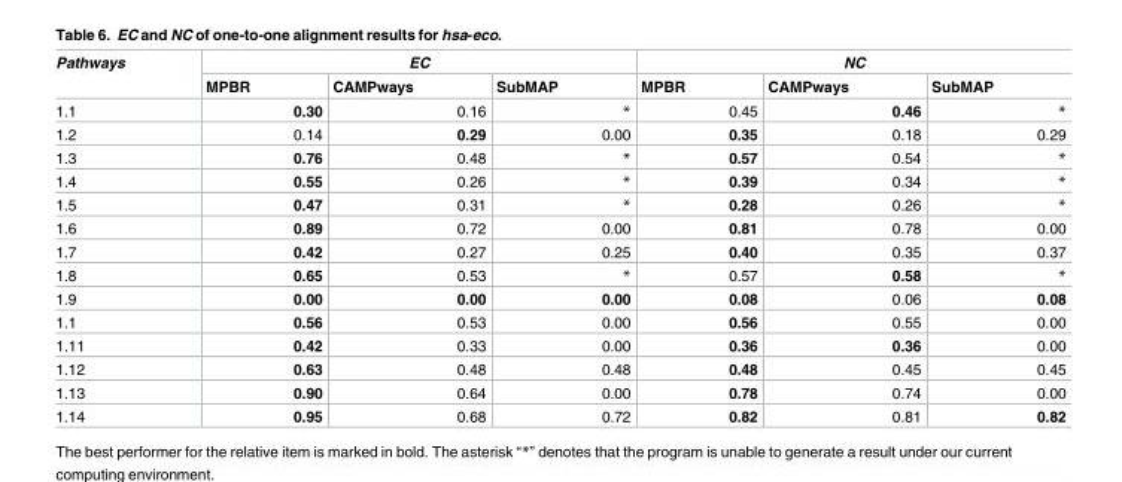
<table><thead><tr><td rowspan="2">Pathways</td><td colspan="3">EC</td><td colspan="3">NC</td></tr><tr><td>MPBR</td><td>CAMPways</td><td>SubMAP</td><td>MPBR</td><td>CAMPways</td><td>SubMAP</td></tr></thead><tbody><tr><td>1.1</td><td>0.30</td><td>0.16</td><td>*</td><td>0.45</td><td>0.46</td><td>*</td></tr><tr><td>1.2</td><td>0.14</td><td>0.29</td><td>0.00</td><td>0.35</td><td>0.18</td><td>0.29</td></tr><tr><td>1.3</td><td>0.76</td><td>0.48</td><td>*</td><td>0.57</td><td>0.54</td><td>*</td></tr><tr><td>1.4</td><td>0.55</td><td>0.26</td><td>*</td><td>0.39</td><td>0.34</td><td>*</td></tr><tr><td>1.5</td><td>0.47</td><td>0.31</td><td>*</td><td>0.28</td><td>0.26</td><td>*</td></tr><tr><td>1.6</td><td>0.89</td><td>0.72</td><td>0.00</td><td>0.81</td><td>0.78</td><td>0.00</td></tr><tr><td>1.7</td><td>0.42</td><td>0.27</td><td>0.25</td><td>0.40</td><td>0.35</td><td>0.37</td></tr><tr><td>1.8</td><td>0.65</td><td>0.53</td><td>*</td><td>0.57</td><td>0.58</td><td>*</td></tr><tr><td>1.9</td><td>0.00</td><td>0.00</td><td>0.00</td><td>0.08</td><td>0.06</td><td>0.08</td></tr><tr><td>1.1</td><td>0.56</td><td>0.53</td><td>0.00</td><td>0.56</td><td>0.55</td><td>0.00</td></tr><tr><td>1.11</td><td>0.42</td><td>0.33</td><td>0.00</td><td>0.36</td><td>0.36</td><td>0.00</td></tr><tr><td>1.12</td><td>0.63</td><td>0.48</td><td>0.48</td><td>0.48</td><td>0.45</td><td>0.45</td></tr><tr><td>1.13</td><td>0.90</td><td>0.64</td><td>0.00</td><td>0.78</td><td>0.74</td><td>0.00</td></tr><tr><td>1.14</td><td>0.95</td><td>0.68</td><td>0.72</td><td>0.82</td><td>0.81</td><td>0.82</td></tr></tbody></table>